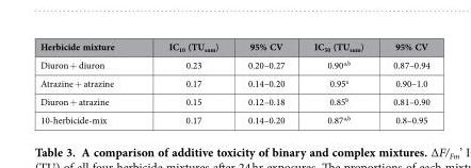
<table><thead><tr><td>Herbicide mixture</td><td>IC<sub>10</sub> (TU<sub>sum</sub>)</td><td>95% CV</td><td>IC<sub>50</sub> (TU<sub>sum</sub>)</td><td>95% CV</td></tr></thead><tbody><tr><td>Diuron + diuron</td><td>0.23</td><td>0.20–0.27</td><td>0.90<sup>a,b</sup></td><td>0.87–0.94</td></tr><tr><td>Atrazine + atrazine</td><td>0.17</td><td>0.14–0.20</td><td>0.95<sup>a</sup></td><td>0.90–1.0</td></tr><tr><td>Diuron + atrazine</td><td>0.15</td><td>0.12–0.18</td><td>0.85<sup>b</sup></td><td>0.81–0.90</td></tr><tr><td>10-herbicide-mix</td><td>0.17</td><td>0.14–0.20</td><td>0.87<sup>a,b</sup></td><td>0.8–0.95</td></tr></tbody></table>